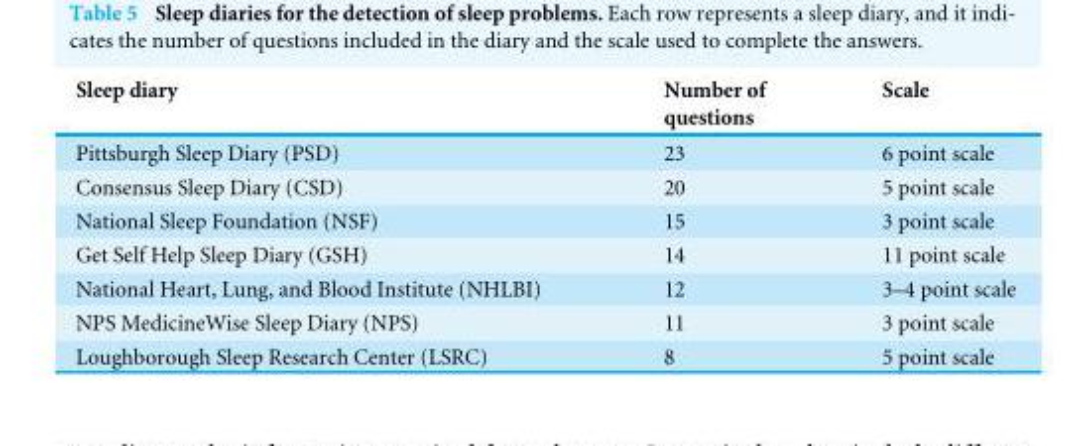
<table><thead><tr><td>Sleep diary</td><td>Number of questions</td><td>Scale</td></tr></thead><tbody><tr><td>Pittsburgh Sleep Diary (PSD)</td><td>23</td><td>6 point scale</td></tr><tr><td>Consensus Sleep Diary (CSD)</td><td>20</td><td>5 point scale</td></tr><tr><td>National Sleep Foundation (NSF)</td><td>15</td><td>3 point scale</td></tr><tr><td>Get Self Help Sleep Diary (GSH)</td><td>14</td><td>11 point scale</td></tr><tr><td>National Heart, Lung, and Blood Institute (NHLBI)</td><td>12</td><td>3–4 point scale</td></tr><tr><td>NPS MedicineWise Sleep Diary (NPS)</td><td>11</td><td>3 point scale</td></tr><tr><td>Loughborough Sleep Research Center (LSRC)</td><td>8</td><td>5 point scale</td></tr></tbody></table>